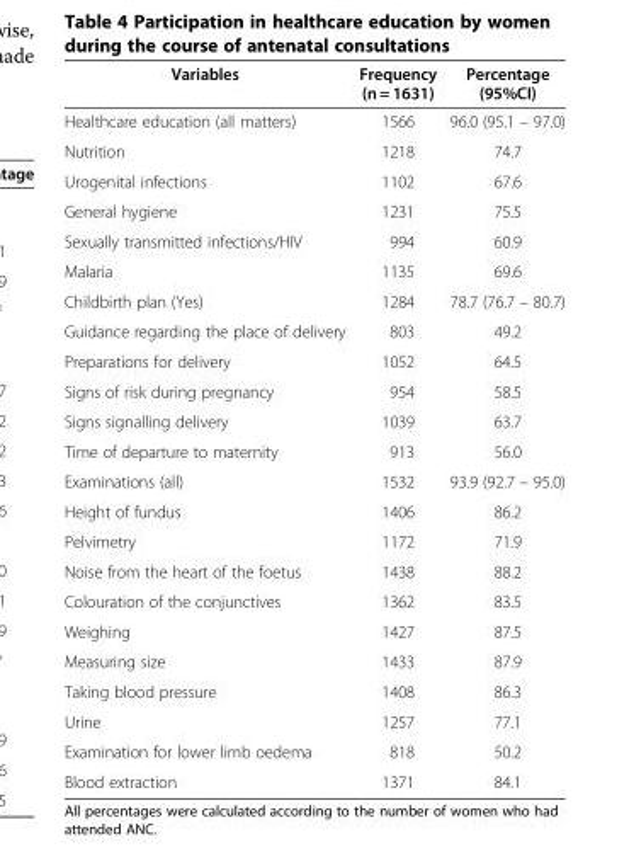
<table><thead><tr><td>Variables</td><td>Frequency (n = 1631)</td><td>Percentage (95%CI)</td></tr></thead><tbody><tr><td>Healthcare education (all matters)</td><td>1566</td><td>96.0 (95.1 – 97.0)</td></tr><tr><td>Nutrition</td><td>1218</td><td>74.7</td></tr><tr><td>Urogenital infections</td><td>1102</td><td>67.6</td></tr><tr><td>General hygiene</td><td>1231</td><td>75.5</td></tr><tr><td>Sexually transmitted infections/HIV</td><td>994</td><td>60.9</td></tr><tr><td>Malaria</td><td>1135</td><td>69.6</td></tr><tr><td>Childbirth plan (Yes)</td><td>1284</td><td>78.7 (76.7 – 80.7)</td></tr><tr><td>Guidance regarding the place of delivery</td><td>803</td><td>49.2</td></tr><tr><td>Preparations for delivery</td><td>1052</td><td>64.5</td></tr><tr><td>Signs of risk during pregnancy</td><td>954</td><td>58.5</td></tr><tr><td>Signs signalling delivery</td><td>1039</td><td>63.7</td></tr><tr><td>Time of departure to maternity</td><td>913</td><td>56.0</td></tr><tr><td>Examinations (all)</td><td>1532</td><td>93.9 (92.7 – 95.0)</td></tr><tr><td>Height of fundus</td><td>1406</td><td>86.2</td></tr><tr><td>Pelvimetry</td><td>1172</td><td>71.9</td></tr><tr><td>Noise from the heart of the foetus</td><td>1438</td><td>88.2</td></tr><tr><td>Colouration of the conjunctives</td><td>1362</td><td>83.5</td></tr><tr><td>Weighing</td><td>1427</td><td>87.5</td></tr><tr><td>Measuring size</td><td>1433</td><td>87.9</td></tr><tr><td>Taking blood pressure</td><td>1408</td><td>86.3</td></tr><tr><td>Urine</td><td>1257</td><td>77.1</td></tr><tr><td>Examination for lower limb oedema</td><td>818</td><td>50.2</td></tr><tr><td>Blood extraction</td><td>1371</td><td>84.1</td></tr></tbody></table>